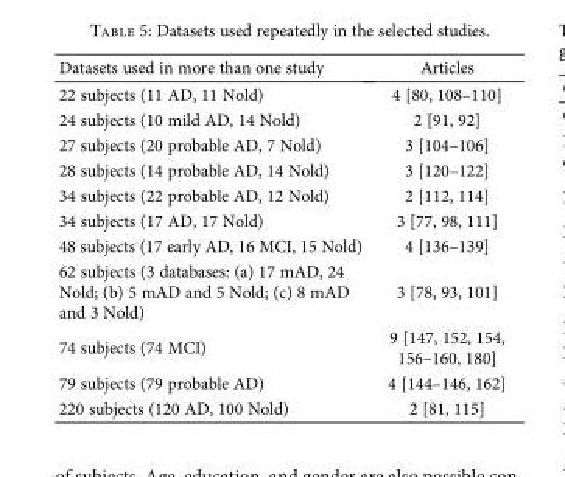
<table><thead><tr><td>Datasets used in more than one study</td><td>Articles</td></tr></thead><tbody><tr><td>22 subjects (11 AD, 11 Nold)</td><td>4 [80, 108–110]</td></tr><tr><td>24 subjects (10 mild AD, 14 Nold)</td><td>2 [91, 92]</td></tr><tr><td>27 subjects (20 probable AD, 7 Nold)</td><td>3 [104–106]</td></tr><tr><td>28 subjects (14 probable AD, 14 Nold)</td><td>3 [120–122]</td></tr><tr><td>34 subjects (22 probable AD, 12 Nold)</td><td>2 [112, 114]</td></tr><tr><td>34 subjects (17 AD, 17 Nold)</td><td>3 [77, 98, 111]</td></tr><tr><td>48 subjects (17 early AD, 16 MCI, 15 Nold)</td><td>4 [136–139]</td></tr><tr><td>62 subjects (3 databases: (a) 17 mAD, 24 Nold; (b) 5 mAD and 5 Nold; (c) 8 mAD and 3 Nold)</td><td>3 [78, 93, 101]</td></tr><tr><td>74 subjects (74 MCI)</td><td>9 [147, 152, 154, 156–160, 180]</td></tr><tr><td>79 subjects (79 probable AD)</td><td>4 [144–146, 162]</td></tr><tr><td>220 subjects (120 AD, 100 Nold)</td><td>2 [81, 115]</td></tr></tbody></table>